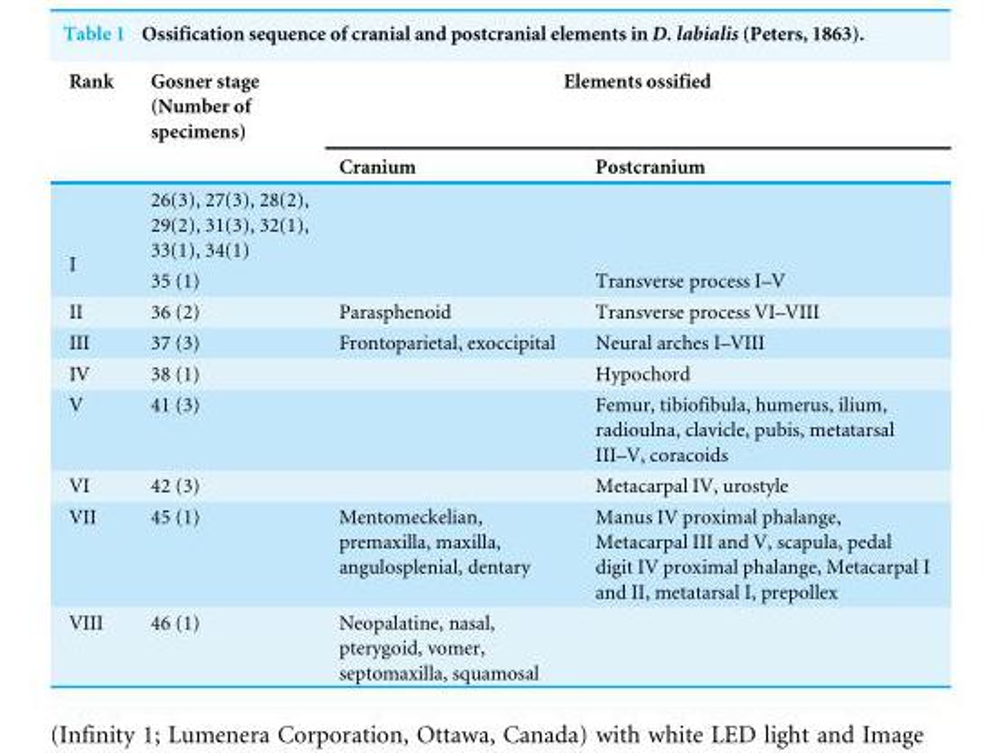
<table><thead><tr><td rowspan="2">Rank</td><td rowspan="2">Gosner stage (Number of specimens)</td><td colspan="2">Elements ossified</td></tr><tr><td>Cranium</td><td>Postcranium</td></tr></thead><tbody><tr><td rowspan="2">I</td><td>26(3), 27(3), 28(2), 29(2), 31(3), 32(1), 33(1), 34(1)</td><td></td><td></td></tr><tr><td>35 (1)</td><td></td><td>Transverse process I–V</td></tr><tr><td>II</td><td>36 (2)</td><td>Parasphenoid</td><td>Transverse process VI–VIII</td></tr><tr><td>III</td><td>37 (3)</td><td>Frontoparietal, exoccipital</td><td>Neural arches I–VIII</td></tr><tr><td>IV</td><td>38 (1)</td><td></td><td>Hypochord</td></tr><tr><td>V</td><td>41 (3)</td><td></td><td>Femur, tibiofibula, humerus, ilium, radioulna, clavicle, pubis, metatarsal III–V, coracoids</td></tr><tr><td>VI</td><td>42 (3)</td><td></td><td>Metacarpal IV, urostyle</td></tr><tr><td>VII</td><td>45 (1)</td><td>Mentomeckelian, premaxilla, maxilla, angulosplenial, dentary</td><td>Manus IV proximal phalange, Metacarpal III and V, scapula, pedal digit IV proximal phalange, Metacarpal I and II, metatarsal I, prepollex</td></tr><tr><td>VIII</td><td>46 (1)</td><td>Neopalatine, nasal, pterygoid, vomer, septomaxilla, squamosal</td><td></td></tr></tbody></table>